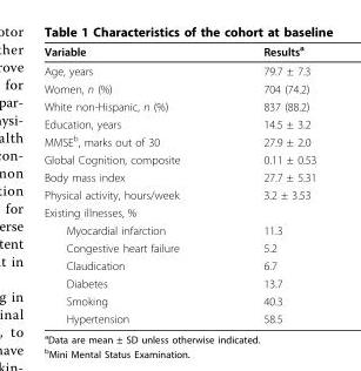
<table><thead><tr><td>Variable</td><td>Results<sup>a</sup></td></tr></thead><tbody><tr><td>Age, years</td><td>79.7 ± 7.3</td></tr><tr><td>Women, n (%)</td><td>704 (74.2)</td></tr><tr><td>White non-Hispanic, n (%)</td><td>837 (88.2)</td></tr><tr><td>Education, years</td><td>14.5 ± 3.2</td></tr><tr><td>MMSE<sup>b</sup>, marks out of 30</td><td>27.9 ± 2.0</td></tr><tr><td>Global Cognition, composite</td><td>0.11 ± 0.53</td></tr><tr><td>Body mass index</td><td>27.7 ± 5.31</td></tr><tr><td>Physical activity, hours/week</td><td>3.2 ± 3.53</td></tr><tr><td colspan="2">Existing illnesses, %</td></tr><tr><td>Myocardial infarction</td><td>11.3</td></tr><tr><td>Congestive heart failure</td><td>5.2</td></tr><tr><td>Claudication</td><td>6.7</td></tr><tr><td>Diabetes</td><td>13.7</td></tr><tr><td>Smoking</td><td>40.3</td></tr><tr><td>Hypertension</td><td>58.5</td></tr></tbody></table>